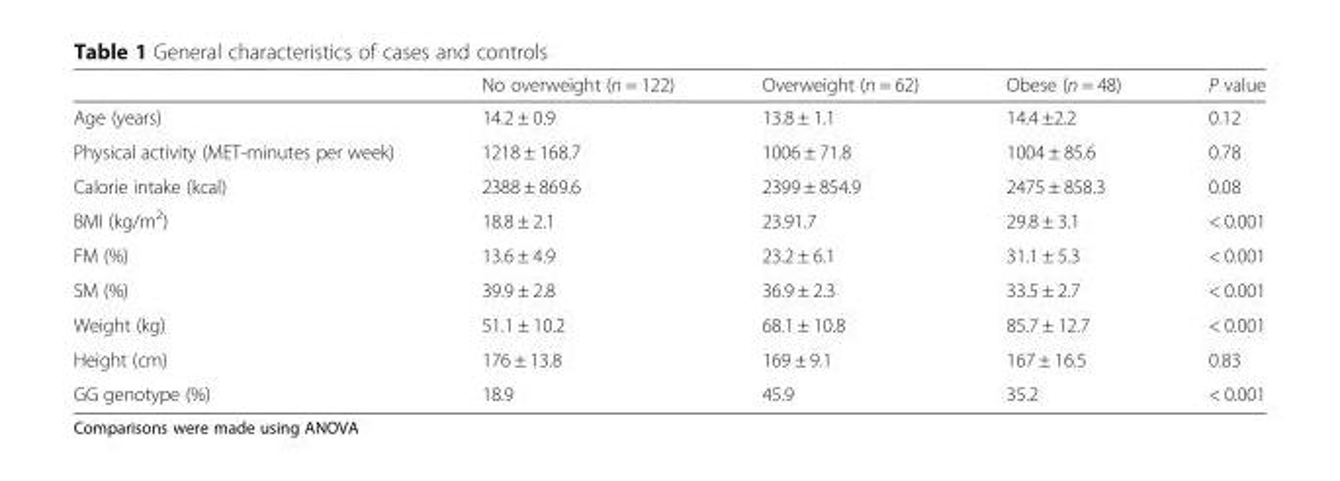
<table><thead><tr><td></td><td>No overweight (n = 122)</td><td>Overweight (n = 62)</td><td>Obese (n = 48)</td><td>P value</td></tr></thead><tbody><tr><td>Age (years)</td><td>14.2 ± 0.9</td><td>13.8 ± 1.1</td><td>14.4 ±2.2</td><td>0.12</td></tr><tr><td>Physical activity (MET-minutes per week)</td><td>1218 ± 168.7</td><td>1006 ± 71.8</td><td>1004 ± 85.6</td><td>0.78</td></tr><tr><td>Calorie intake (kcal)</td><td>2388 ± 869.6</td><td>2399 ± 854.9</td><td>2475 ± 858.3</td><td>0.08</td></tr><tr><td>BMI (kg/m<sup>2</sup>)</td><td>18.8 ± 2.1</td><td>23.91.7</td><td>29.8 ± 3.1</td><td>&lt; 0.001</td></tr><tr><td>FM (%)</td><td>13.6 ± 4.9</td><td>23.2 ± 6.1</td><td>31.1 ± 5.3</td><td>&lt; 0.001</td></tr><tr><td>SM (%)</td><td>39.9 ± 2.8</td><td>36.9 ± 2.3</td><td>33.5 ± 2.7</td><td>&lt; 0.001</td></tr><tr><td>Weight (kg)</td><td>51.1 ± 10.2</td><td>68.1 ± 10.8</td><td>85.7 ± 12.7</td><td>&lt; 0.001</td></tr><tr><td>Height (cm)</td><td>176 ± 13.8</td><td>169 ± 9.1</td><td>167 ± 16.5</td><td>0.83</td></tr><tr><td>GG genotype (%)</td><td>18.9</td><td>45.9</td><td>35.2</td><td>&lt; 0.001</td></tr></tbody></table>